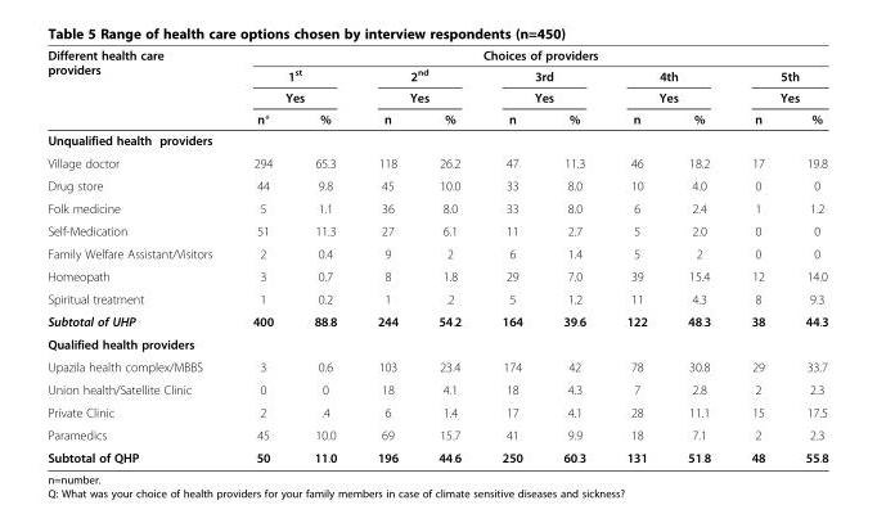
<table><thead><tr><td rowspan="4">Different health care providers</td><td colspan="10">Choices of providers</td></tr><tr><td rowspan="2" colspan="2">1<sup>st</sup> Yes</td><td rowspan="2" colspan="2">2<sup>nd</sup> Yes</td><td rowspan="2" colspan="2">3rd Yes</td><td rowspan="2" colspan="2">4th Yes</td><td rowspan="2" colspan="2">5th Yes</td></tr><tr></tr><tr><td>n*</td><td>%</td><td>n</td><td>%</td><td>n</td><td>%</td><td>n</td><td>%</td><td>n</td><td>%</td></tr></thead><tbody><tr><td colspan="11">Unqualified health providers</td></tr><tr><td>Village doctor</td><td>294</td><td>65.3</td><td>118</td><td>26.2</td><td>47</td><td>11.3</td><td>46</td><td>18.2</td><td>17</td><td>19.8</td></tr><tr><td>Drug store</td><td>44</td><td>9.8</td><td>45</td><td>10.0</td><td>33</td><td>8.0</td><td>10</td><td>4.0</td><td>0</td><td>0</td></tr><tr><td>Folk medicine</td><td>5</td><td>1.1</td><td>36</td><td>8.0</td><td>33</td><td>8.0</td><td>6</td><td>2.4</td><td>1</td><td>1.2</td></tr><tr><td>Self-Medication</td><td>51</td><td>11.3</td><td>27</td><td>6.1</td><td>11</td><td>2.7</td><td>5</td><td>2.0</td><td>0</td><td>0</td></tr><tr><td>Family Welfare Assistant/Visitors</td><td>2</td><td>0.4</td><td>9</td><td>2</td><td>6</td><td>1.4</td><td>5</td><td>2</td><td>0</td><td>0</td></tr><tr><td>Homeopath</td><td>3</td><td>0.7</td><td>8</td><td>1.8</td><td>29</td><td>7.0</td><td>39</td><td>15.4</td><td>12</td><td>14.0</td></tr><tr><td>Spiritual treatment</td><td>1</td><td>0.2</td><td>1</td><td>.2</td><td>5</td><td>1.2</td><td>11</td><td>4.3</td><td>8</td><td>9.3</td></tr><tr><td>Subtotal of UHP</td><td>400</td><td>88.8</td><td>244</td><td>54.2</td><td>164</td><td>39.6</td><td>122</td><td>48.3</td><td>38</td><td>44.3</td></tr><tr><td colspan="11">Qualified health providers</td></tr><tr><td>Upazila health complex/MBBS</td><td>3</td><td>0.6</td><td>103</td><td>23.4</td><td>174</td><td>42</td><td>78</td><td>30.8</td><td>29</td><td>33.7</td></tr><tr><td>Union health/Satellite Clinic</td><td>0</td><td>0</td><td>18</td><td>4.1</td><td>18</td><td>4.3</td><td>7</td><td>2.8</td><td>2</td><td>2.3</td></tr><tr><td>Private Clinic</td><td>2</td><td>.4</td><td>6</td><td>1.4</td><td>17</td><td>4.1</td><td>28</td><td>11.1</td><td>15</td><td>17.5</td></tr><tr><td>Paramedics</td><td>45</td><td>10.0</td><td>69</td><td>15.7</td><td>41</td><td>9.9</td><td>18</td><td>7.1</td><td>2</td><td>2.3</td></tr><tr><td>Subtotal of QHP</td><td>50</td><td>11.0</td><td>196</td><td>44.6</td><td>250</td><td>60.3</td><td>131</td><td>51.8</td><td>48</td><td>55.8</td></tr></tbody></table>